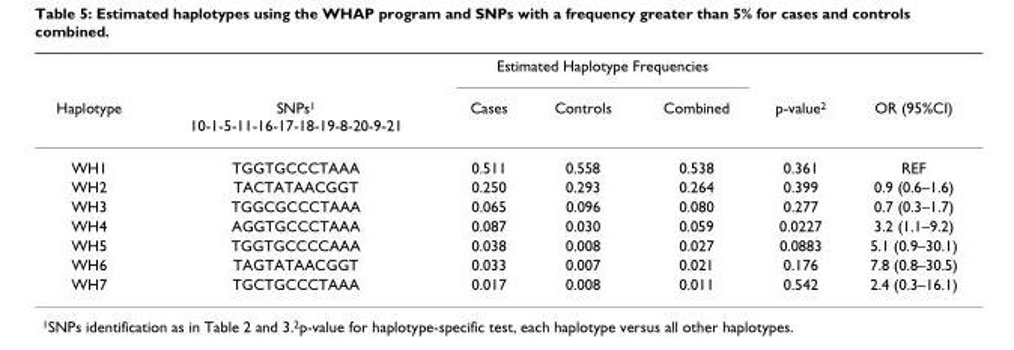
<table><thead><tr><td rowspan="2">Haplotype</td><td rowspan="2">SNPs<sup>1</sup> 10-1-5-11-16-17-18-19-8-20-9-21</td><td colspan="3">Estimated Haplotype Frequencies</td><td rowspan="2">p-value<sup>2</sup></td><td rowspan="2">OR (95%CI)</td></tr><tr><td>Cases</td><td>Controls</td><td>Combined</td></tr></thead><tbody><tr><td>WH1</td><td>TGGTGCCCTAAA</td><td>0.511</td><td>0.558</td><td>0.538</td><td>0.361</td><td>REF</td></tr><tr><td>WH2</td><td>TACTATAACGGT</td><td>0.250</td><td>0.293</td><td>0.264</td><td>0.399</td><td>0.9 (0.6–1.6)</td></tr><tr><td>WH3</td><td>TGGCGCCCTAAA</td><td>0.065</td><td>0.096</td><td>0.080</td><td>0.277</td><td>0.7 (0.3–1.7)</td></tr><tr><td>WH4</td><td>AGGTGCCCTAAA</td><td>0.087</td><td>0.030</td><td>0.059</td><td>0.0227</td><td>3.2 (1.1–9.2)</td></tr><tr><td>WH5</td><td>TGGTGCCCCAAA</td><td>0.038</td><td>0.008</td><td>0.027</td><td>0.0883</td><td>5.1 (0.9–30.1)</td></tr><tr><td>WH6</td><td>TAGTATAACGGT</td><td>0.033</td><td>0.007</td><td>0.021</td><td>0.176</td><td>7.8 (0.8–30.5)</td></tr><tr><td>WH7</td><td>TGCTGCCCTAAA</td><td>0.017</td><td>0.008</td><td>0.011</td><td>0.542</td><td>2.4 (0.3–16.1)</td></tr></tbody></table>